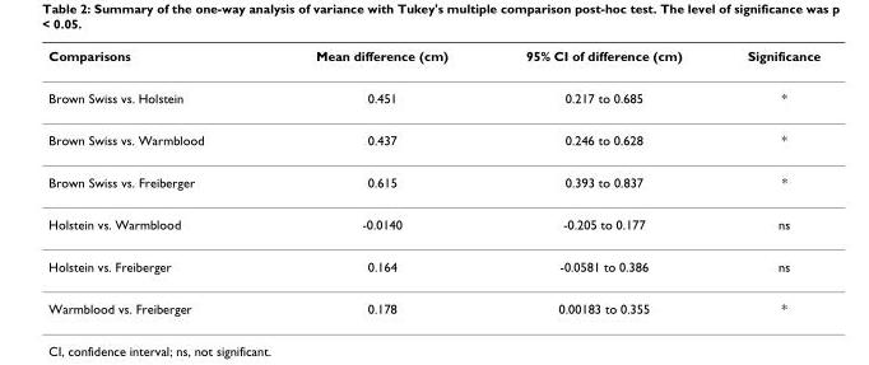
<table><thead><tr><td>Comparisons</td><td>Mean difference (cm)</td><td>95% CI of difference (cm)</td><td>Significance</td></tr></thead><tbody><tr><td>Brown Swiss vs. Holstein</td><td>0.451</td><td>0.217 to 0.685</td><td>*</td></tr><tr><td>Brown Swiss vs. Warmblood</td><td>0.437</td><td>0.246 to 0.628</td><td>*</td></tr><tr><td>Brown Swiss vs. Freiberger</td><td>0.615</td><td>0.393 to 0.837</td><td>*</td></tr><tr><td>Holstein vs. Warmblood</td><td>-0.0140</td><td>-0.205 to 0.177</td><td>ns</td></tr><tr><td>Holstein vs. Freiberger</td><td>0.164</td><td>-0.0581 to 0.386</td><td>ns</td></tr><tr><td>Warmblood vs. Freiberger</td><td>0.178</td><td>0.00183 to 0.355</td><td>*</td></tr></tbody></table>